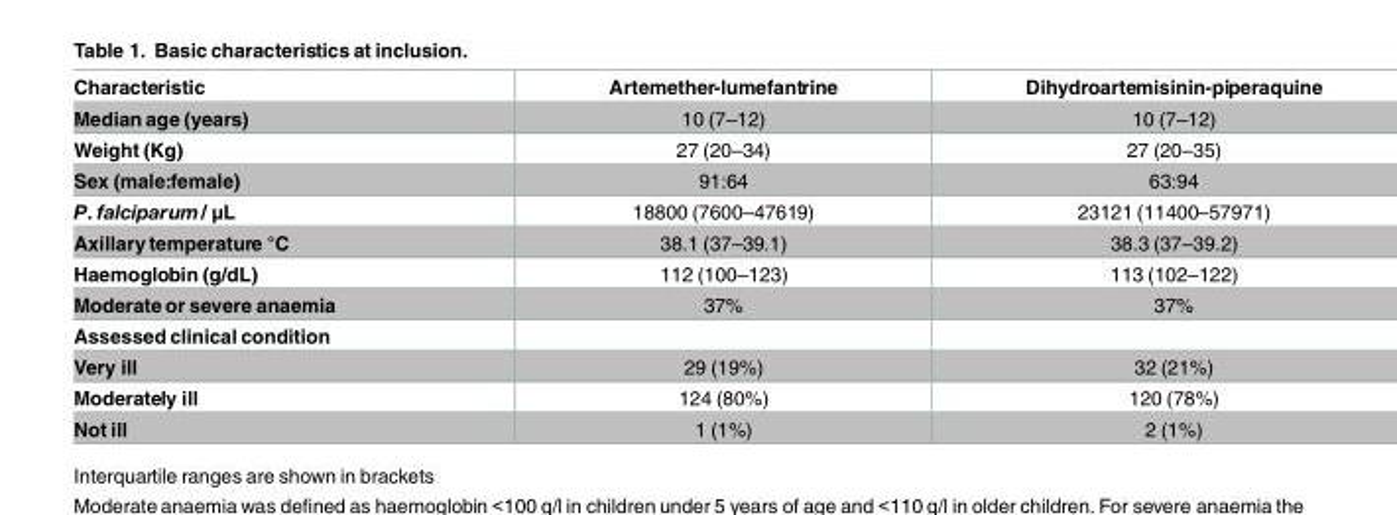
<table><thead><tr><td>Characteristic</td><td>Artemether-lumefantrine</td><td>Dihydroartemisinin-piperaquine</td></tr></thead><tbody><tr><td>Median age (years)</td><td>10 (7–12)</td><td>10 (7–12)</td></tr><tr><td>Weight (Kg)</td><td>27 (20–34)</td><td>27 (20–35)</td></tr><tr><td>Sex (male:female)</td><td>91:64</td><td>63:94</td></tr><tr><td>P. falciparum/ μL</td><td>18800 (7600–47619)</td><td>23121 (11400–57971)</td></tr><tr><td>Axillary temperature °C</td><td>38.1 (37–39.1)</td><td>38.3 (37–39.2)</td></tr><tr><td>Haemoglobin (g/dL)</td><td>112 (100–123)</td><td>113 (102–122)</td></tr><tr><td>Moderate or severe anaemia</td><td>37%</td><td>37%</td></tr><tr><td colspan="3">Assessed clinical condition</td></tr><tr><td>Very ill</td><td>29 (19%)</td><td>32 (21%)</td></tr><tr><td>Moderately ill</td><td>124 (80%)</td><td>120 (78%)</td></tr><tr><td>Not ill</td><td>1 (1%)</td><td>2 (1%)</td></tr></tbody></table>